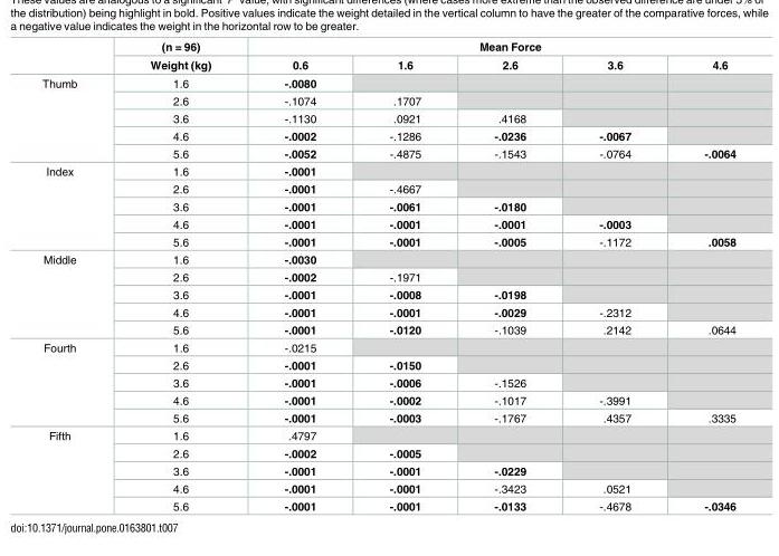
<table><thead><tr><td rowspan="2"></td><td rowspan="2">(n = 96) Weight (kg)</td><td colspan="5">Mean Force</td></tr><tr><td>0.6</td><td>1.6</td><td>2.6</td><td>3.6</td><td>4.6</td></tr></thead><tbody><tr><td rowspan="5">Thumb</td><td>1.6</td><td>-.0080</td><td></td><td></td><td></td><td></td></tr><tr><td>2.6</td><td>-.1074</td><td>.1707</td><td></td><td></td><td></td></tr><tr><td>3.6</td><td>-.1130</td><td>.0921</td><td>.4168</td><td></td><td></td></tr><tr><td>4.6</td><td>-.0002</td><td>-.1286</td><td>-.0236</td><td>-.0067</td><td></td></tr><tr><td>5.6</td><td>-.0052</td><td>-.4875</td><td>-.1543</td><td>-.0764</td><td>-.0064</td></tr><tr><td rowspan="5">Index</td><td>1.6</td><td>-.0001</td><td></td><td></td><td></td><td></td></tr><tr><td>2.6</td><td>-.0001</td><td>-.4667</td><td></td><td></td><td></td></tr><tr><td>3.6</td><td>-.0001</td><td>-.0061</td><td>-.0180</td><td></td><td></td></tr><tr><td>4.6</td><td>-.0001</td><td>-.0001</td><td>-.0001</td><td>-.0003</td><td></td></tr><tr><td>5.6</td><td>-.0001</td><td>-.0001</td><td>-.0005</td><td>-.1172</td><td>.0058</td></tr><tr><td rowspan="5">Middle</td><td>1.6</td><td>-.0030</td><td></td><td></td><td></td><td></td></tr><tr><td>2.6</td><td>-.0002</td><td>-.1971</td><td></td><td></td><td></td></tr><tr><td>3.6</td><td>-.0001</td><td>-.0008</td><td>-.0198</td><td></td><td></td></tr><tr><td>4.6</td><td>-.0001</td><td>-.0001</td><td>-.0029</td><td>-.2312</td><td></td></tr><tr><td>5.6</td><td>-.0001</td><td>-.0120</td><td>-.1039</td><td>.2142</td><td>.0644</td></tr><tr><td rowspan="5">Fourth</td><td>1.6</td><td>-.0215</td><td></td><td></td><td></td><td></td></tr><tr><td>2.6</td><td>-.0001</td><td>-.0150</td><td></td><td></td><td></td></tr><tr><td>3.6</td><td>-.0001</td><td>-.0006</td><td>-.1526</td><td></td><td></td></tr><tr><td>4.6</td><td>-.0001</td><td>-.0002</td><td>-.1017</td><td>-.3991</td><td></td></tr><tr><td>5.6</td><td>-.0001</td><td>-.0003</td><td>-.1767</td><td>.4357</td><td>.3335</td></tr><tr><td rowspan="5">Fifth</td><td>1.6</td><td>.4797</td><td></td><td></td><td></td><td></td></tr><tr><td>2.6</td><td>-.0002</td><td>-.0005</td><td></td><td></td><td></td></tr><tr><td>3.6</td><td>-.0001</td><td>-.0001</td><td>-.0229</td><td></td><td></td></tr><tr><td>4.6</td><td>-.0001</td><td>-.0001</td><td>-.3423</td><td>.0521</td><td></td></tr><tr><td>5.6</td><td>-.0001</td><td>-.0001</td><td>-.0133</td><td>-.4678</td><td>-.0346</td></tr></tbody></table>